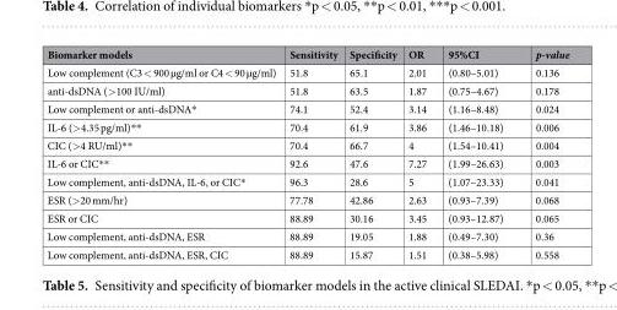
<table><thead><tr><td>Biomarker models</td><td>Sensitivity</td><td>Specificity</td><td>OR</td><td>95%CI</td><td>p-value</td></tr></thead><tbody><tr><td>Low complement (C3 &lt; 900 µg/ml or C4 &lt; 90 µg/ml)</td><td>51.8</td><td>65.1</td><td>2.01</td><td>(0.80–5.01)</td><td>0.136</td></tr><tr><td>anti-dsDNA (&gt;100 IU/ml)</td><td>51.8</td><td>63.5</td><td>1.87</td><td>(0.75–4.67)</td><td>0.178</td></tr><tr><td>Low complement or anti-dsDNA*</td><td>74.1</td><td>52.4</td><td>3.14</td><td>(1.16–8.48)</td><td>0.024</td></tr><tr><td>IL-6 (&gt;4.35 pg/ml)**</td><td>70.4</td><td>61.9</td><td>3.86</td><td>(1.46–10.18)</td><td>0.006</td></tr><tr><td>CIC (&gt;4 RU/ml)**</td><td>70.4</td><td>66.7</td><td>4</td><td>(1.54–10.41)</td><td>0.004</td></tr><tr><td>IL-6 or CIC**</td><td>92.6</td><td>47.6</td><td>7.27</td><td>(1.99–26.63)</td><td>0.003</td></tr><tr><td>Low complement, anti-dsDNA, IL-6, or CIC*</td><td>96.3</td><td>28.6</td><td>5</td><td>(1.07–23.33)</td><td>0.041</td></tr><tr><td>ESR (&gt;20 mm/hr)</td><td>77.78</td><td>42.86</td><td>2.63</td><td>(0.93–7.39)</td><td>0.068</td></tr><tr><td>ESR or CIC</td><td>88.89</td><td>30.16</td><td>3.45</td><td>(0.93–12.87)</td><td>0.065</td></tr><tr><td>Low complement, anti-dsDNA, ESR</td><td>88.89</td><td>19.05</td><td>1.88</td><td>(0.49–7.30)</td><td>0.36</td></tr><tr><td>Low complement, anti-dsDNA, ESR, CIC</td><td>88.89</td><td>15.87</td><td>1.51</td><td>(0.38–5.98)</td><td>0.558</td></tr></tbody></table>